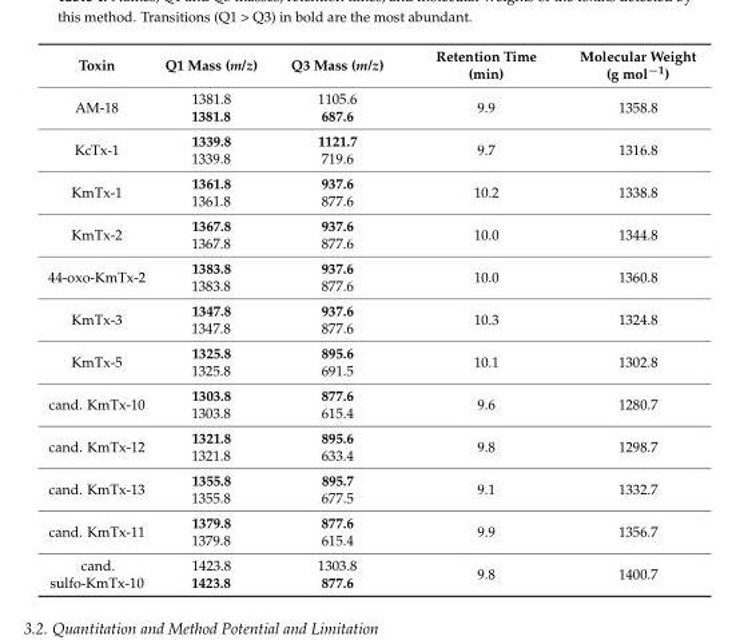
<table><thead><tr><td>Toxin</td><td>Q1 Mass (m/z)</td><td>Q3 Mass (m/z)</td><td>Retention Time (min)</td><td>Molecular Weight (g mol<sup>−1</sup>)</td></tr></thead><tbody><tr><td>AM-18</td><td>1381.8 1381.8</td><td>1105.6 687.6</td><td>9.9</td><td>1358.8</td></tr><tr><td>KcTx-1</td><td>1339.8 1339.8</td><td>1121.7 719.6</td><td>9.7</td><td>1316.8</td></tr><tr><td>KmTx-1</td><td>1361.8 1361.8</td><td>937.6 877.6</td><td>10.2</td><td>1338.8</td></tr><tr><td>KmTx-2</td><td>1367.8 1367.8</td><td>937.6 877.6</td><td>10.0</td><td>1344.8</td></tr><tr><td>44-oxo-KmTx-2</td><td>1383.8 1383.8</td><td>937.6 877.6</td><td>10.0</td><td>1360.8</td></tr><tr><td>KmTx-3</td><td>1347.8 1347.8</td><td>937.6 877.6</td><td>10.3</td><td>1324.8</td></tr><tr><td>KmTx-5</td><td>1325.8 1325.8</td><td>895.6 691.5</td><td>10.1</td><td>1302.8</td></tr><tr><td>cand. KmTx-10</td><td>1303.8 1303.8</td><td>877.6 615.4</td><td>9.6</td><td>1280.7</td></tr><tr><td>cand. KmTx-12</td><td>1321.8 1321.8</td><td>895.6 633.4</td><td>9.8</td><td>1298.7</td></tr><tr><td>cand. KmTx-13</td><td>1355.8 1355.8</td><td>895.7 677.5</td><td>9.1</td><td>1332.7</td></tr><tr><td>cand. KmTx-11</td><td>1379.8 1379.8</td><td>877.6 615.4</td><td>9.9</td><td>1356.7</td></tr><tr><td>cand. sulfo-KmTx-10</td><td>1423.8 1423.8</td><td>1303.8 877.6</td><td>9.8</td><td>1400.7</td></tr></tbody></table>